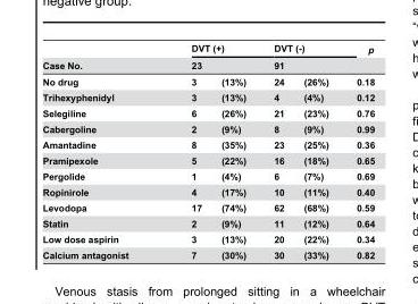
<table><thead><tr><td rowspan="2">Case No.</td><td colspan="2">DVT (+)</td><td colspan="2">DVT (-)</td><td rowspan="2">p</td></tr><tr><td>23</td><td></td><td>91</td><td></td></tr></thead><tbody><tr><td>No drug</td><td>3</td><td>(13%)</td><td>24</td><td>(26%)</td><td>0.18</td></tr><tr><td>Trihexyphenidyl</td><td>3</td><td>(13%)</td><td>4</td><td>(4%)</td><td>0.12</td></tr><tr><td>Selegiline</td><td>6</td><td>(26%)</td><td>21</td><td>(23%)</td><td>0.76</td></tr><tr><td>Cabergoline</td><td>2</td><td>(9%)</td><td>8</td><td>(9%)</td><td>0.99</td></tr><tr><td>Amantadine</td><td>8</td><td>(35%)</td><td>23</td><td>(25%)</td><td>0.36</td></tr><tr><td>Pramipexole</td><td>5</td><td>(22%)</td><td>16</td><td>(18%)</td><td>0.65</td></tr><tr><td>Pergolide</td><td>1</td><td>(4%)</td><td>6</td><td>(7%)</td><td>0.69</td></tr><tr><td>Ropinirole</td><td>4</td><td>(17%)</td><td>10</td><td>(11%)</td><td>0.40</td></tr><tr><td>Levodopa</td><td>17</td><td>(74%)</td><td>62</td><td>(68%)</td><td>0.59</td></tr><tr><td>Statin</td><td>2</td><td>(9%)</td><td>11</td><td>(12%)</td><td>0.64</td></tr><tr><td>Low dose aspirin</td><td>3</td><td>(13%)</td><td>20</td><td>(22%)</td><td>0.34</td></tr><tr><td>Calcium antagonist</td><td>7</td><td>(30%)</td><td>30</td><td>(33%)</td><td>0.82</td></tr></tbody></table>